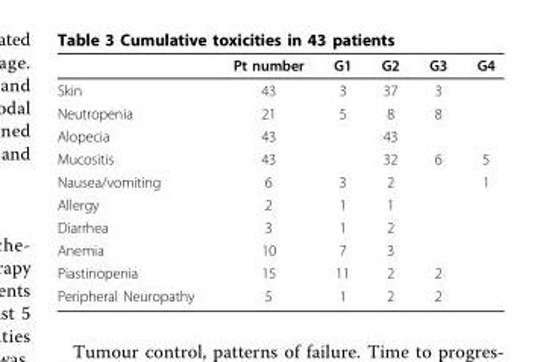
<table><thead><tr><td></td><td>Pt number</td><td>G1</td><td>G2</td><td>G3</td><td>G4</td></tr></thead><tbody><tr><td>Skin</td><td>43</td><td>3</td><td>37</td><td>3</td><td></td></tr><tr><td>Neutropenia</td><td>21</td><td>5</td><td>8</td><td>8</td><td></td></tr><tr><td>Alopecia</td><td>43</td><td></td><td>43</td><td></td><td></td></tr><tr><td>Mucositis</td><td>43</td><td></td><td>32</td><td>6</td><td>5</td></tr><tr><td>Nausea/vomiting</td><td>6</td><td>3</td><td>2</td><td></td><td>1</td></tr><tr><td>Allergy</td><td>2</td><td>1</td><td>1</td><td></td><td></td></tr><tr><td>Diarrhea</td><td>3</td><td>1</td><td>2</td><td></td><td></td></tr><tr><td>Anemia</td><td>10</td><td>7</td><td>3</td><td></td><td></td></tr><tr><td>Piastinopenia</td><td>15</td><td>11</td><td>2</td><td>2</td><td></td></tr><tr><td>Peripheral Neuropathy</td><td>5</td><td>1</td><td>2</td><td>2</td><td></td></tr></tbody></table>